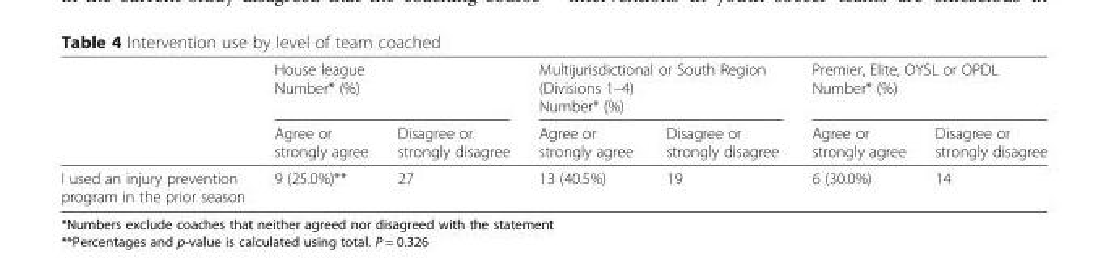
<table><thead><tr><td rowspan="2"></td><td colspan="2">House league Number* (%)</td><td colspan="2">Multijurisdictional or South Region (Divisions 1–4) Number* (%)</td><td colspan="2">Premier, Elite, OYSL or OPDL Number* (%)</td></tr><tr><td>Agree or strongly agree</td><td>Disagree or strongly disagree</td><td>Agree or strongly agree</td><td>Disagree or strongly disagree</td><td>Agree or strongly agree</td><td>Disagree or strongly disagree</td></tr></thead><tbody><tr><td>I used an injury prevention program in the prior season</td><td>9 (25.0%)**</td><td>27</td><td>13 (40.5%)</td><td>19</td><td>6 (30.0%)</td><td>14</td></tr></tbody></table>